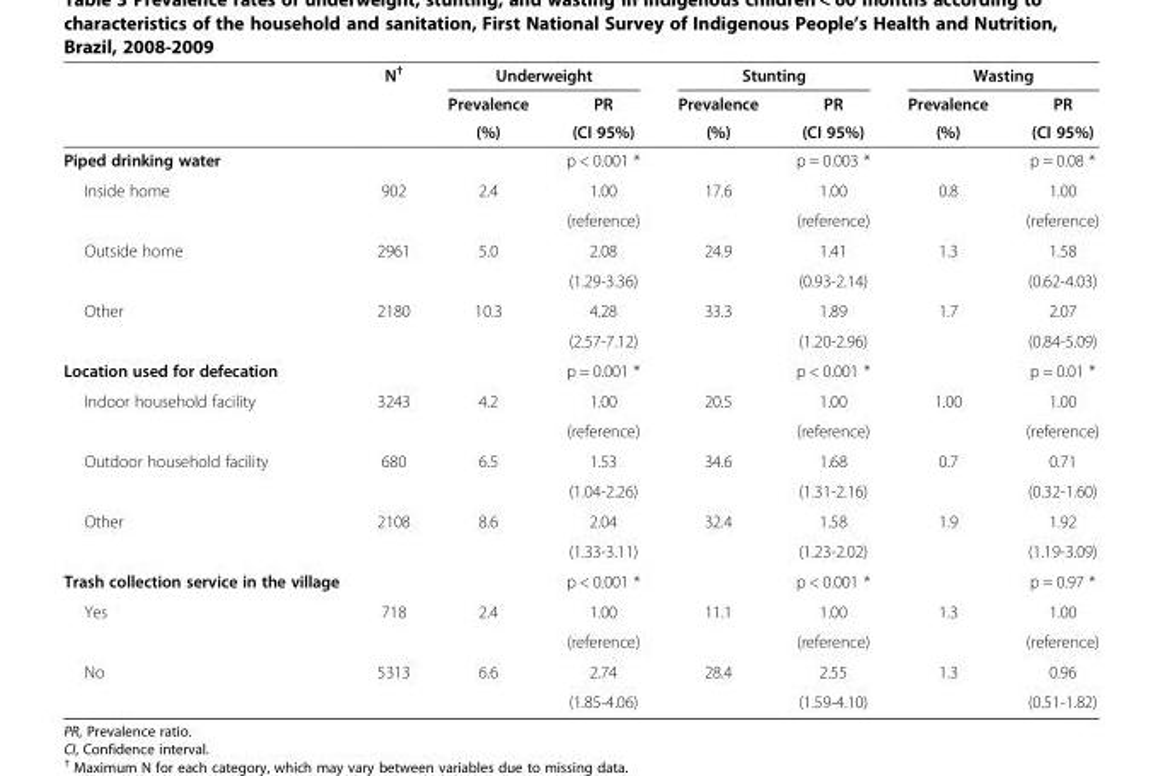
<table><thead><tr><td rowspan="3"></td><td rowspan="3">N<sup>†</sup></td><td colspan="2">Underweight</td><td colspan="2">Stunting</td><td colspan="2">Wasting</td></tr><tr><td rowspan="2">Prevalence (%)</td><td rowspan="2">PR (CI 95%)</td><td rowspan="2">Prevalence (%)</td><td rowspan="2">PR (CI 95%)</td><td rowspan="2">Prevalence (%)</td><td rowspan="2">PR (CI 95%)</td></tr><tr></tr></thead><tbody><tr><td>Piped drinking water</td><td></td><td></td><td>p &lt; 0.001 *</td><td></td><td>p = 0.003 *</td><td></td><td>p = 0.08 *</td></tr><tr><td rowspan="2">Inside home</td><td rowspan="2">902</td><td rowspan="2">2.4</td><td>1.00</td><td rowspan="2">17.6</td><td>1.00</td><td rowspan="2">0.8</td><td>1.00</td></tr><tr><td>(reference)</td><td>(reference)</td><td>(reference)</td></tr><tr><td rowspan="2">Outside home</td><td rowspan="2">2961</td><td rowspan="2">5.0</td><td>2.08</td><td rowspan="2">24.9</td><td>1.41</td><td rowspan="2">1.3</td><td>1.58</td></tr><tr><td>(1.29-3.36)</td><td>(0.93-2.14)</td><td>(0.62-4.03)</td></tr><tr><td rowspan="2">Other</td><td rowspan="2">2180</td><td rowspan="2">10.3</td><td>4.28</td><td rowspan="2">33.3</td><td>1.89</td><td rowspan="2">1.7</td><td>2.07</td></tr><tr><td>(2.57-7.12)</td><td>(1.20-2.96)</td><td>(0.84-5.09)</td></tr><tr><td>Location used for defecation</td><td></td><td></td><td>p = 0.001 *</td><td></td><td>p &lt; 0.001 *</td><td></td><td>p = 0.01 *</td></tr><tr><td rowspan="2">Indoor household facility</td><td rowspan="2">3243</td><td rowspan="2">4.2</td><td>1.00</td><td rowspan="2">20.5</td><td>1.00</td><td rowspan="2">1.00</td><td>1.00</td></tr><tr><td>(reference)</td><td>(reference)</td><td>(reference)</td></tr><tr><td rowspan="2">Outdoor household facility</td><td rowspan="2">680</td><td rowspan="2">6.5</td><td>1.53</td><td rowspan="2">34.6</td><td>1.68</td><td rowspan="2">0.7</td><td>0.71</td></tr><tr><td>(1.04-2.26)</td><td>(1.31-2.16)</td><td>(0.32-1.60)</td></tr><tr><td rowspan="2">Other</td><td rowspan="2">2108</td><td rowspan="2">8.6</td><td>2.04</td><td rowspan="2">32.4</td><td>1.58</td><td rowspan="2">1.9</td><td>1.92</td></tr><tr><td>(1.33-3.11)</td><td>(1.23-2.02)</td><td>(1.19-3.09)</td></tr><tr><td>Trash collection service in the village</td><td></td><td></td><td>p &lt; 0.001 *</td><td></td><td>p &lt; 0.001 *</td><td></td><td>p = 0.97 *</td></tr><tr><td rowspan="2">Yes</td><td rowspan="2">718</td><td rowspan="2">2.4</td><td>1.00</td><td rowspan="2">11.1</td><td>1.00</td><td rowspan="2">1.3</td><td>1.00</td></tr><tr><td>(reference)</td><td>(reference)</td><td>(reference)</td></tr><tr><td rowspan="2">No</td><td rowspan="2">5313</td><td rowspan="2">6.6</td><td>2.74</td><td rowspan="2">28.4</td><td>2.55</td><td rowspan="2">1.3</td><td>0.96</td></tr><tr><td>(1.85-4.06)</td><td>(1.59-4.10)</td><td>(0.51-1.82)</td></tr></tbody></table>